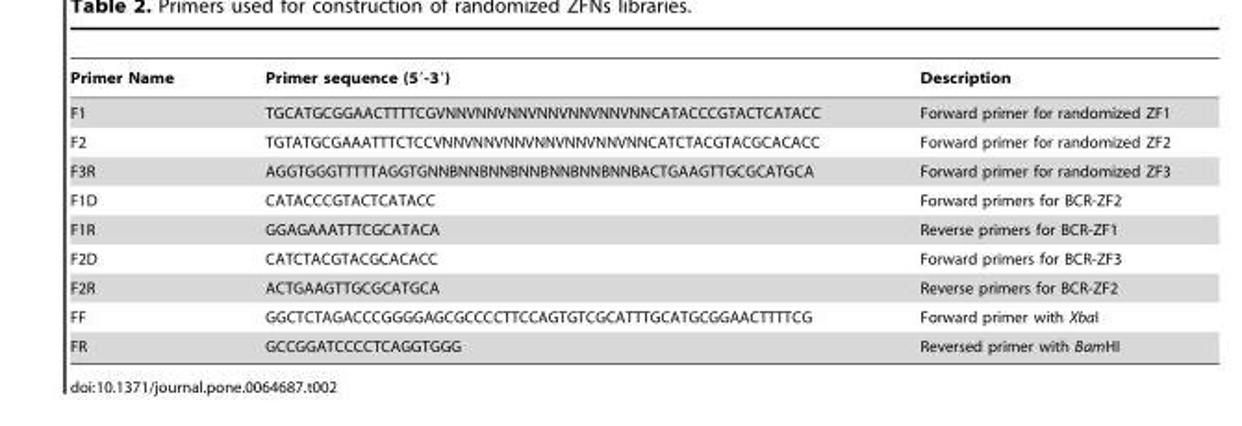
<table><thead><tr><td>Primer Name</td><td>Primer sequence (5′-3′)</td><td>Description</td></tr></thead><tbody><tr><td>F1</td><td>TGCATGCGGAACTTTTCGVNNVNNVNNVNNVNNVNNVNNCATACCCGTACTCATACC</td><td>Forward primer for randomized ZF1</td></tr><tr><td>F2</td><td>TGTATGCGAAATTTCTCCVNNVNNVNNVNNVNNVNNVNNCATCTACGTACGCACACC</td><td>Forward primer for randomized ZF2</td></tr><tr><td>F3R</td><td>AGGTGGGTTTTTAGGTGNNBNNBNNBNNBNNBNNBNNBACTGAAGTTGCGCATGCA</td><td>Forward primer for randomized ZF3</td></tr><tr><td>F1D</td><td>CATACCCGTACTCATACC</td><td>Forward primers for BCR-ZF2</td></tr><tr><td>F1R</td><td>GGAGAAATTTCGCATACA</td><td>Reverse primers for BCR-ZF1</td></tr><tr><td>F2D</td><td>CATCTACGTACGCACACC</td><td>Forward primers for BCR-ZF3</td></tr><tr><td>F2R</td><td>ACTGAAGTTGCGCATGCA</td><td>Reverse primers for BCR-ZF2</td></tr><tr><td>FF</td><td>GGCTCTAGACCCGGGGAGCGCCCCTTCCAGTGTCGCATTTGCATGCGGAACTTTTCG</td><td>Forward primer with XbaI</td></tr><tr><td>FR</td><td>GCCGGATCCCCTCAGGTGGG</td><td>Reversed primer with BamHI</td></tr></tbody></table>